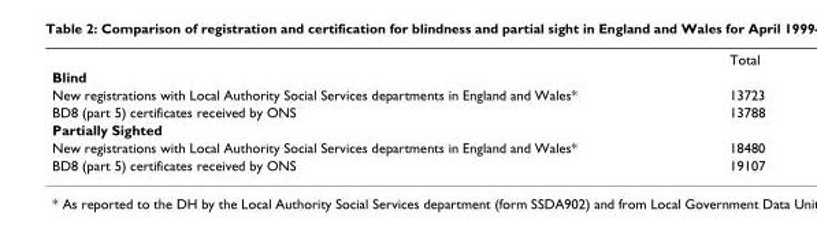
<table><thead><tr><td></td><td>Total</td></tr></thead><tbody><tr><td colspan="2">Blind</td></tr><tr><td>New registrations with Local Authority Social Services departments in England and Wales*</td><td>13723</td></tr><tr><td>BD8 (part 5) certificates received by ONS</td><td>13788</td></tr><tr><td colspan="2">Partially Sighted</td></tr><tr><td>New registrations with Local Authority Social Services departments in England and Wales*</td><td>18480</td></tr><tr><td>BD8 (part 5) certificates received by ONS</td><td>19107</td></tr></tbody></table>